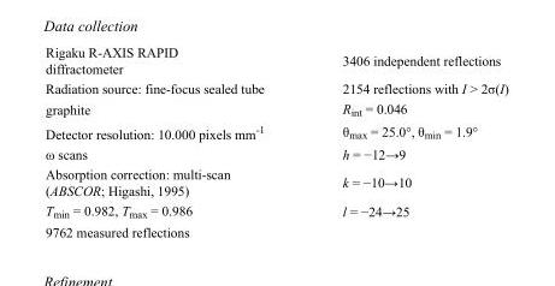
<table><tbody><tr><td>Rigaku R-AXIS RAPID diffractometer</td><td>3406 independent reflections</td></tr><tr><td>Radiation source: fine-focus sealed tube</td><td>2154 reflections with I &gt; 2σ(I)</td></tr><tr><td>graphite</td><td>R<sub>int</sub> = 0.046</td></tr><tr><td>Detector resolution: 10.000 pixels mm<sup>-1</sup></td><td>θ<sub>max</sub> = 25.0°, θ<sub>min</sub> = 1.9°</td></tr><tr><td>ω scans</td><td>h = −12→9</td></tr><tr><td>Absorption correction: multi-scan (ABSCOR; Higashi, 1995)</td><td>k = −10→10</td></tr><tr><td>T<sub>min</sub> = 0.982, T<sub>max</sub> = 0.986</td><td>l = −24→25</td></tr><tr><td>9762 measured reflections</td><td></td></tr></tbody></table>